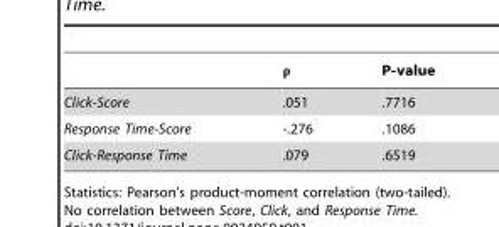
<table><thead><tr><td></td><td>ρ</td><td>P-value</td></tr></thead><tbody><tr><td>Click-Score</td><td>.051</td><td>.7716</td></tr><tr><td>Response Time-Score</td><td>-.276</td><td>.1086</td></tr><tr><td>Click-Response Time</td><td>.079</td><td>.6519</td></tr></tbody></table>